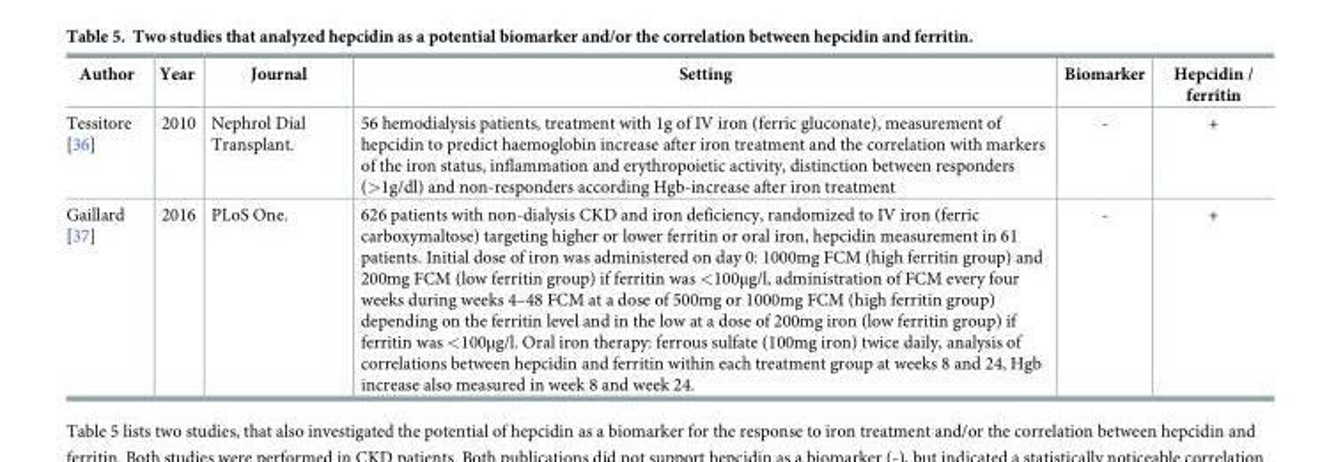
<table><thead><tr><td>Author</td><td>Year</td><td>Journal</td><td>Setting</td><td>Biomarker</td><td>Hepcidin / ferritin</td></tr></thead><tbody><tr><td>Tessitore [36]</td><td>2010</td><td>Nephrol Dial Transplant.</td><td>56 hemodialysis patients, treatment with 1g of IV iron (ferric gluconate), measurement of hepcidin to predict haemoglobin increase after iron treatment and the correlation with markers of the iron status, inflammation and erythropoietic activity, distinction between responders (&gt;1g/dl) and non-responders according Hgb-increase after iron treatment</td><td>-</td><td>+</td></tr><tr><td>Gaillard [37]</td><td>2016</td><td>PLoS One.</td><td>626 patients with non-dialysis CKD and iron deficiency, randomized to IV iron (ferric carboxymaltose) targeting higher or lower ferritin or oral iron, hepcidin measurement in 61 patients. Initial dose of iron was administered on day 0: 1000mg FCM (high ferritin group) and 200mg FCM (low ferritin group) if ferritin was &lt;100μg/l, administration of FCM every four weeks during weeks 4–48 FCM at a dose of 500mg or 1000mg FCM (high ferritin group) depending on the ferritin level and in the low at a dose of 200mg iron (low ferritin group) if ferritin was &lt;100μg/l. Oral iron therapy: ferrous sulfate (100mg iron) twice daily, analysis of correlations between hepcidin and ferritin within each treatment group at weeks 8 and 24, Hgb increase also measured in week 8 and week 24.</td><td>-</td><td>+</td></tr></tbody></table>